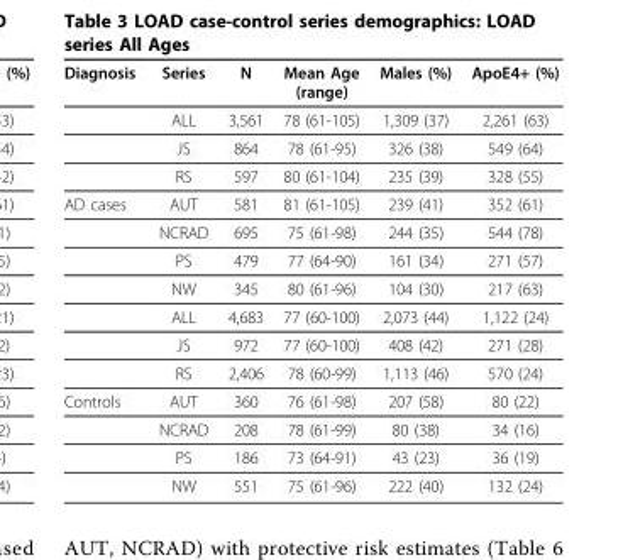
<table><thead><tr><td>Diagnosis</td><td>Series</td><td>N</td><td>Mean Age (range)</td><td>Males (%)</td><td>ApoE4+ (%)</td></tr></thead><tbody><tr><td></td><td>ALL</td><td>3,561</td><td>78 (61-105)</td><td>1,309 (37)</td><td>2,261 (63)</td></tr><tr><td></td><td>JS</td><td>864</td><td>78 (61-95)</td><td>326 (38)</td><td>549 (64)</td></tr><tr><td></td><td>RS</td><td>597</td><td>80 (61-104)</td><td>235 (39)</td><td>328 (55)</td></tr><tr><td rowspan="7">AD cases</td><td>AUT</td><td>581</td><td>81 (61-105)</td><td>239 (41)</td><td>352 (61)</td></tr><tr><td>NCRAD</td><td>695</td><td>75 (61-98)</td><td>244 (35)</td><td>544 (78)</td></tr><tr><td>PS</td><td>479</td><td>77 (64-90)</td><td>161 (34)</td><td>271 (57)</td></tr><tr><td>NW</td><td>345</td><td>80 (61-96)</td><td>104 (30)</td><td>217 (63)</td></tr><tr><td>ALL</td><td>4,683</td><td>77 (60-100)</td><td>2,073 (44)</td><td>1,122 (24)</td></tr><tr><td>JS</td><td>972</td><td>77 (60-100)</td><td>408 (42)</td><td>271 (28)</td></tr><tr><td>RS</td><td>2,406</td><td>78 (60-99)</td><td>1,113 (46)</td><td>570 (24)</td></tr><tr><td rowspan="4">Controls</td><td>AUT</td><td>360</td><td>76 (61-98)</td><td>207 (58)</td><td>80 (22)</td></tr><tr><td>NCRAD</td><td>208</td><td>78 (61-99)</td><td>80 (38)</td><td>34 (16)</td></tr><tr><td>PS</td><td>186</td><td>73 (64-91)</td><td>43 (23)</td><td>36 (19)</td></tr><tr><td>NW</td><td>551</td><td>75 (61-96)</td><td>222 (40)</td><td>132 (24)</td></tr></tbody></table>